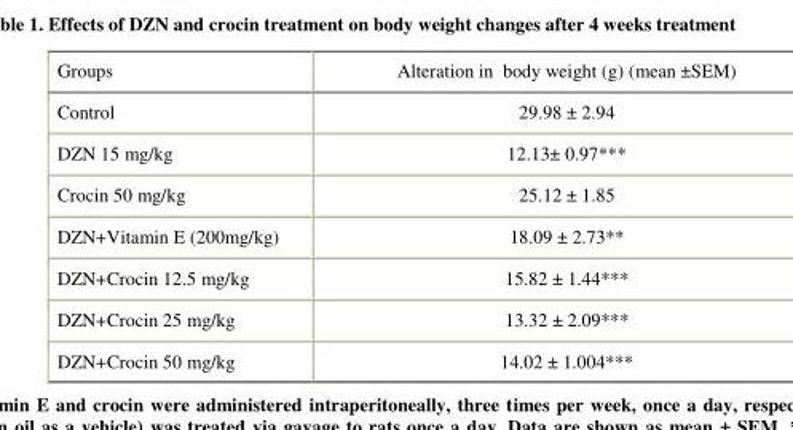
<table><thead><tr><td>Groups</td><td>Alteration in body weight (g) (mean ±SEM)</td></tr></thead><tbody><tr><td>Control</td><td>29.98 ± 2.94</td></tr><tr><td>DZN 15 mg/kg</td><td>12.13± 0.97***</td></tr><tr><td>Crocin 50 mg/kg</td><td>25.12 ± 1.85</td></tr><tr><td>DZN+Vitamin E (200mg/kg)</td><td>18.09 ± 2.73**</td></tr><tr><td>DZN+Crocin 12.5 mg/kg</td><td>15.82 ± 1.44***</td></tr><tr><td>DZN+Crocin 25 mg/kg</td><td>13.32 ± 2.09***</td></tr><tr><td>DZN+Crocin 50 mg/kg</td><td>14.02 ± 1.004***</td></tr></tbody></table>